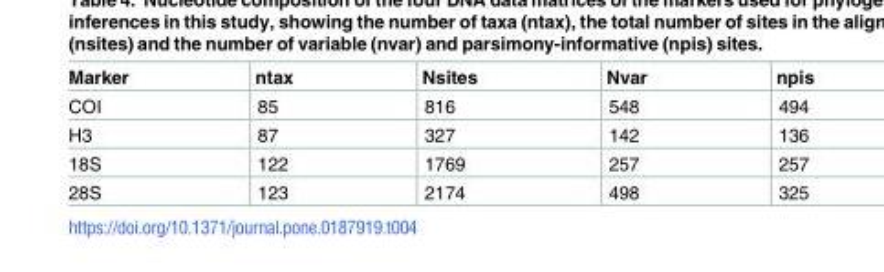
<table><thead><tr><td>Marker</td><td>ntax</td><td>Nsites</td><td>Nvar</td><td>npis</td></tr></thead><tbody><tr><td>COI</td><td>85</td><td>816</td><td>548</td><td>494</td></tr><tr><td>H3</td><td>87</td><td>327</td><td>142</td><td>136</td></tr><tr><td>18S</td><td>122</td><td>1769</td><td>257</td><td>257</td></tr><tr><td>28S</td><td>123</td><td>2174</td><td>498</td><td>325</td></tr></tbody></table>